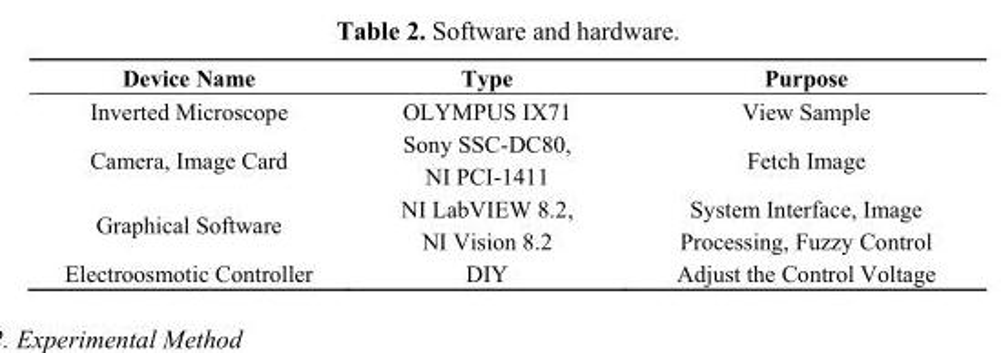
<table><thead><tr><td>Device Name</td><td>Type</td><td>Purpose</td></tr></thead><tbody><tr><td>Inverted Microscope</td><td>OLYMPUS IX71</td><td>View Sample</td></tr><tr><td>Camera, Image Card</td><td>Sony SSC-DC80, NI PCI-1411</td><td>Fetch Image</td></tr><tr><td>Graphical Software</td><td>NI LabVIEW 8.2, NI Vision 8.2</td><td>System Interface, Image Processing, Fuzzy Control</td></tr><tr><td>Electroosmotic Controller</td><td>DIY</td><td>Adjust the Control Voltage</td></tr></tbody></table>